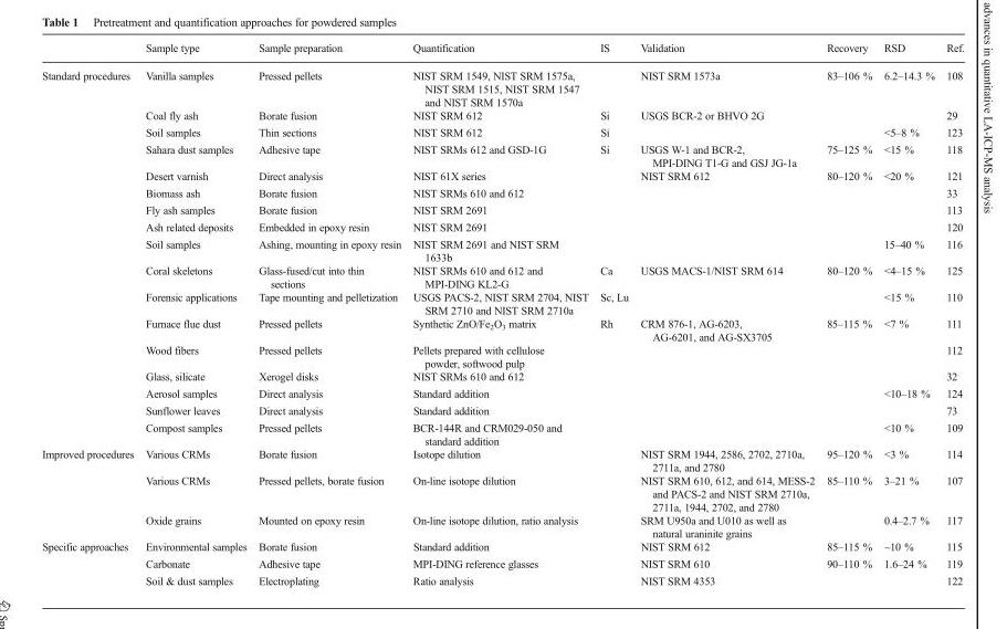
<table><thead><tr><td></td><td>Sample type</td><td>Sample preparation</td><td>Quantification</td><td>IS</td><td>Validation</td><td>Recovery</td><td>RSD</td><td>Ref.</td></tr></thead><tbody><tr><td rowspan="17">Standard procedures</td><td>Vanilla samples</td><td>Pressed pellets</td><td>NIST SRM 1549, NIST SRM 1575a, NIST SRM 1515, NIST SRM 1547 and NIST SRM 1570a</td><td></td><td>NIST SRM 1573a</td><td>83–106 %</td><td>6.2–14.3 %</td><td>108</td></tr><tr><td>Coal fly ash</td><td>Borate fusion</td><td>NIST SRM 612</td><td>Si</td><td>USGS BCR-2 or BHVO 2G</td><td></td><td></td><td>29</td></tr><tr><td>Soil samples</td><td>Thin sections</td><td>NIST SRM 612</td><td>Si</td><td></td><td></td><td>&lt;5–8 %</td><td>123</td></tr><tr><td>Sahara dust samples</td><td>Adhesive tape</td><td>NIST SRMs 612 and GSD-1G</td><td>Si</td><td>USGS W-1 and BCR-2, MPI-DING T1-G and GSJ JG-1a</td><td>75–125 %</td><td>&lt;15 %</td><td>118</td></tr><tr><td>Desert varnish</td><td>Direct analysis</td><td>NIST 61X series</td><td></td><td>NIST SRM 612</td><td>80–120 %</td><td>&lt;20 %</td><td>121</td></tr><tr><td>Biomass ash</td><td>Borate fusion</td><td>NIST SRMs 610 and 612</td><td></td><td></td><td></td><td></td><td>33</td></tr><tr><td>Fly ash samples</td><td>Borate fusion</td><td>NIST SRM 2691</td><td></td><td></td><td></td><td></td><td>113</td></tr><tr><td>Ash related deposits</td><td>Embedded in epoxy resin</td><td>NIST SRM 2691</td><td></td><td></td><td></td><td></td><td>120</td></tr><tr><td>Soil samples</td><td>Ashing, mounting in epoxy resin</td><td>NIST SRM 2691 and NIST SRM 1633b</td><td></td><td></td><td></td><td>15–40 %</td><td>116</td></tr><tr><td>Coral skeletons</td><td>Glass-fused/cut into thin sections</td><td>NIST SRMs 610 and 612 and MPI-DING KL2-G</td><td>Ca</td><td>USGS MACS-1/NIST SRM 614</td><td>80–120 %</td><td>&lt;4–15 %</td><td>125</td></tr><tr><td>Forensic applications</td><td>Tape mounting and pelletization</td><td>USGS PACS-2, NIST SRM 2704, NIST SRM 2710 and NIST SRM 2710a</td><td>Sc, Lu</td><td></td><td></td><td>&lt;15 %</td><td>110</td></tr><tr><td>Furnace flue dust</td><td>Pressed pellets</td><td>Synthetic ZnO/Fe<sub>2</sub>O<sub>3</sub> matrix</td><td>Rh</td><td>CRM 876-1, AG-6203, AG-6201, and AG-SX3705</td><td>85–115 %</td><td>&lt;7 %</td><td>111</td></tr><tr><td>Wood fibers</td><td>Pressed pellets</td><td>Pellets prepared with cellulose powder, softwood pulp</td><td></td><td></td><td></td><td></td><td>112</td></tr><tr><td>Glass, silicate</td><td>Xerogel disks</td><td>NIST SRMs 610 and 612</td><td></td><td></td><td></td><td></td><td>32</td></tr><tr><td>Aerosol samples</td><td>Direct analysis</td><td>Standard addition</td><td></td><td></td><td></td><td>&lt;10–18 %</td><td>124</td></tr><tr><td>Sunflower leaves</td><td>Direct analysis</td><td>Standard addition</td><td></td><td></td><td></td><td></td><td>73</td></tr><tr><td>Compost samples</td><td>Pressed pellets</td><td>BCR-144R and CRM029-050 and standard addition</td><td></td><td></td><td></td><td>&lt;10 %</td><td>109</td></tr><tr><td rowspan="3">Improved procedures</td><td>Various CRMs</td><td>Borate fusion</td><td>Isotope dilution</td><td></td><td>NIST SRM 1944, 2586, 2702, 2710a, 2711a, and 2780</td><td>95–120 %</td><td>&lt;3 %</td><td>114</td></tr><tr><td>Various CRMs</td><td>Pressed pellets, borate fusion</td><td>On-line isotope dilution</td><td></td><td>NIST SRM 610, 612, and 614, MESS-2 and PACS-2 and NIST SRM 2710a, 2711a, 1944, 2702, and 2780</td><td>85–110 %</td><td>3–21 %</td><td>107</td></tr><tr><td>Oxide grains</td><td>Mounted on epoxy resin</td><td>On-line isotope dilution, ratio analysis</td><td></td><td>SRM U950a and U010 as well as natural uraninite grains</td><td></td><td>0.4–2.7 %</td><td>117</td></tr><tr><td rowspan="3">Specific approaches</td><td>Environmental samples</td><td>Borate fusion</td><td>Standard addition</td><td></td><td>NIST SRM 612</td><td>85–115 %</td><td>~10 %</td><td>115</td></tr><tr><td>Carbonate</td><td>Adhesive tape</td><td>MPI-DING reference glasses</td><td></td><td>NIST SRM 610</td><td>90–110 %</td><td>1.6–24 %</td><td>119</td></tr><tr><td>Soil &amp; dust samples</td><td>Electroplating</td><td>Ratio analysis</td><td></td><td>NIST SRM 4353</td><td></td><td></td><td>122</td></tr></tbody></table>